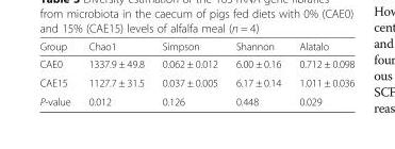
<table><thead><tr><td>Group</td><td>Chao1</td><td>Simpson</td><td>Shannon</td><td>Alatalo</td></tr></thead><tbody><tr><td>CAE0</td><td>1337.9 ± 49.8</td><td>0.062 ± 0.012</td><td>6.00 ± 0.16</td><td>0.712 ± 0.098</td></tr><tr><td>CAE15</td><td>1127.7 ± 31.5</td><td>0.037 ± 0.005</td><td>6.17 ± 0.14</td><td>1.011 ± 0.036</td></tr><tr><td>P-value</td><td>0.012</td><td>0.126</td><td>0.448</td><td>0.029</td></tr></tbody></table>